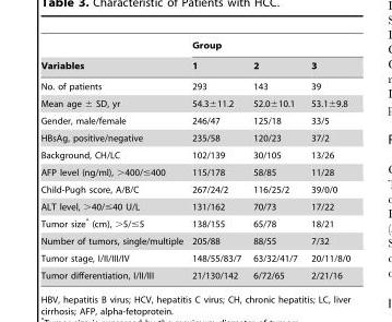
<table><thead><tr><td rowspan="2">Variables</td><td colspan="3">Group</td></tr><tr><td>1</td><td>2</td><td>3</td></tr></thead><tbody><tr><td>No. of patients</td><td>293</td><td>143</td><td>39</td></tr><tr><td>Mean age ± SD, yr</td><td>54.3±11.2</td><td>52.0±10.1</td><td>53.1±9.8</td></tr><tr><td>Gender, male/female</td><td>246/47</td><td>125/18</td><td>33/5</td></tr><tr><td>HBsAg, positive/negative</td><td>235/58</td><td>120/23</td><td>37/2</td></tr><tr><td>Background, CH/LC</td><td>102/139</td><td>30/105</td><td>13/26</td></tr><tr><td>AFP level (ng/ml), &gt;400/≤400</td><td>115/178</td><td>58/85</td><td>11/28</td></tr><tr><td>Child-Pugh score, A/B/C</td><td>267/24/2</td><td>116/25/2</td><td>39/0/0</td></tr><tr><td>ALT level, &gt;40/≤40 U/L</td><td>131/162</td><td>70/73</td><td>17/22</td></tr><tr><td>Tumor size* (cm), &gt;5/≤5</td><td>138/155</td><td>65/78</td><td>18/21</td></tr><tr><td>Number of tumors, single/multiple</td><td>205/88</td><td>88/55</td><td>7/32</td></tr><tr><td>Tumor stage, I/II/III/IV</td><td>148/55/83/7</td><td>63/32/41/7</td><td>20/11/8/0</td></tr><tr><td>Tumor differentiation, I/II/III</td><td>21/130/142</td><td>6/72/65</td><td>2/21/16</td></tr></tbody></table>